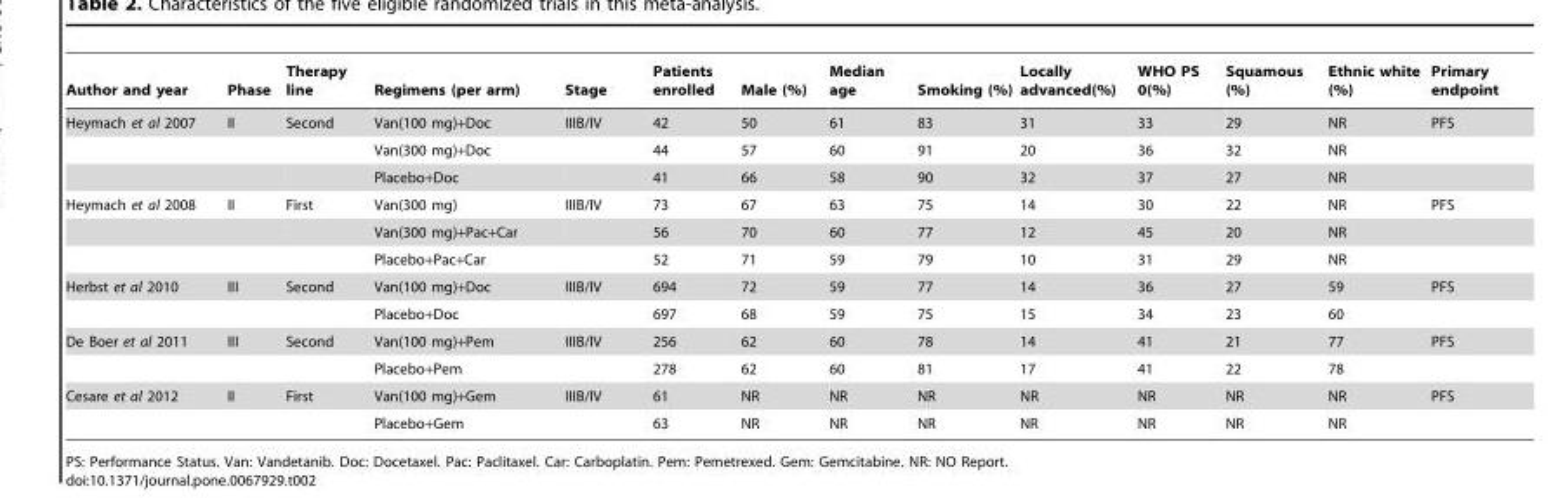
<table><thead><tr><td>Author and year</td><td>Phase</td><td>Therapy line</td><td>Regimens (per arm)</td><td>Stage</td><td>Patients enrolled</td><td>Male (%)</td><td>Median age</td><td>Smoking (%)</td><td>Locally advanced(%)</td><td>WHO PS 0(%)</td><td>Squamous (%)</td><td>Ethnic white (%)</td><td>Primary endpoint</td></tr></thead><tbody><tr><td rowspan="3">Heymach et al 2007</td><td>II</td><td>Second</td><td>Van(100 mg)+Doc</td><td>IIIB/IV</td><td>42</td><td>50</td><td>61</td><td>83</td><td>31</td><td>33</td><td>29</td><td>NR</td><td>PFS</td></tr><tr><td></td><td></td><td>Van(300 mg)+Doc</td><td></td><td>44</td><td>57</td><td>60</td><td>91</td><td>20</td><td>36</td><td>32</td><td>NR</td><td></td></tr><tr><td></td><td></td><td>Placebo+Doc</td><td></td><td>41</td><td>66</td><td>58</td><td>90</td><td>32</td><td>37</td><td>27</td><td>NR</td><td></td></tr><tr><td rowspan="3">Heymach et al 2008</td><td>II</td><td>First</td><td>Van(300 mg)</td><td>IIIB/IV</td><td>73</td><td>67</td><td>63</td><td>75</td><td>14</td><td>30</td><td>22</td><td>NR</td><td>PFS</td></tr><tr><td></td><td></td><td>Van(300 mg)+Pac+Car</td><td></td><td>56</td><td>70</td><td>60</td><td>77</td><td>12</td><td>45</td><td>20</td><td>NR</td><td></td></tr><tr><td></td><td></td><td>Placebo+Pac+Car</td><td></td><td>52</td><td>71</td><td>59</td><td>79</td><td>10</td><td>31</td><td>29</td><td>NR</td><td></td></tr><tr><td rowspan="2">Herbst et al 2010</td><td>III</td><td>Second</td><td>Van(100 mg)+Doc</td><td>IIIB/IV</td><td>694</td><td>72</td><td>59</td><td>77</td><td>14</td><td>36</td><td>27</td><td>59</td><td>PFS</td></tr><tr><td></td><td></td><td>Placebo+Doc</td><td></td><td>697</td><td>68</td><td>59</td><td>75</td><td>15</td><td>34</td><td>23</td><td>60</td><td></td></tr><tr><td rowspan="2">De Boer et al 2011</td><td>III</td><td>Second</td><td>Van(100 mg)+Pem</td><td>IIIB/IV</td><td>256</td><td>62</td><td>60</td><td>78</td><td>14</td><td>41</td><td>21</td><td>77</td><td>PFS</td></tr><tr><td></td><td></td><td>Placebo+Pem</td><td></td><td>278</td><td>62</td><td>60</td><td>81</td><td>17</td><td>41</td><td>22</td><td>78</td><td></td></tr><tr><td rowspan="2">Cesare et al 2012</td><td>II</td><td>First</td><td>Van(100 mg)+Gem</td><td>IIIB/IV</td><td>61</td><td>NR</td><td>NR</td><td>NR</td><td>NR</td><td>NR</td><td>NR</td><td>NR</td><td>PFS</td></tr><tr><td></td><td></td><td>Placebo+Gem</td><td></td><td>63</td><td>NR</td><td>NR</td><td>NR</td><td>NR</td><td>NR</td><td>NR</td><td>NR</td><td></td></tr></tbody></table>